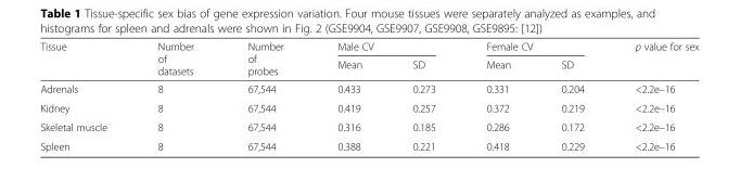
<table><thead><tr><td rowspan="2">Tissue</td><td rowspan="2">Number of datasets</td><td rowspan="2">Number of probes</td><td colspan="2">Male CV</td><td colspan="2">Female CV</td><td rowspan="2">p value for sex</td></tr><tr><td>Mean</td><td>SD</td><td>Mean</td><td>SD</td></tr></thead><tbody><tr><td>Adrenals</td><td>8</td><td>67,544</td><td>0.433</td><td>0.273</td><td>0.331</td><td>0.204</td><td>&lt;2.2e–16</td></tr><tr><td>Kidney</td><td>8</td><td>67,544</td><td>0.419</td><td>0.257</td><td>0.372</td><td>0.219</td><td>&lt;2.2e–16</td></tr><tr><td>Skeletal muscle</td><td>8</td><td>67,544</td><td>0.316</td><td>0.185</td><td>0.286</td><td>0.172</td><td>&lt;2.2e–16</td></tr><tr><td>Spleen</td><td>8</td><td>67,544</td><td>0.388</td><td>0.221</td><td>0.418</td><td>0.229</td><td>&lt;2.2e–16</td></tr></tbody></table>